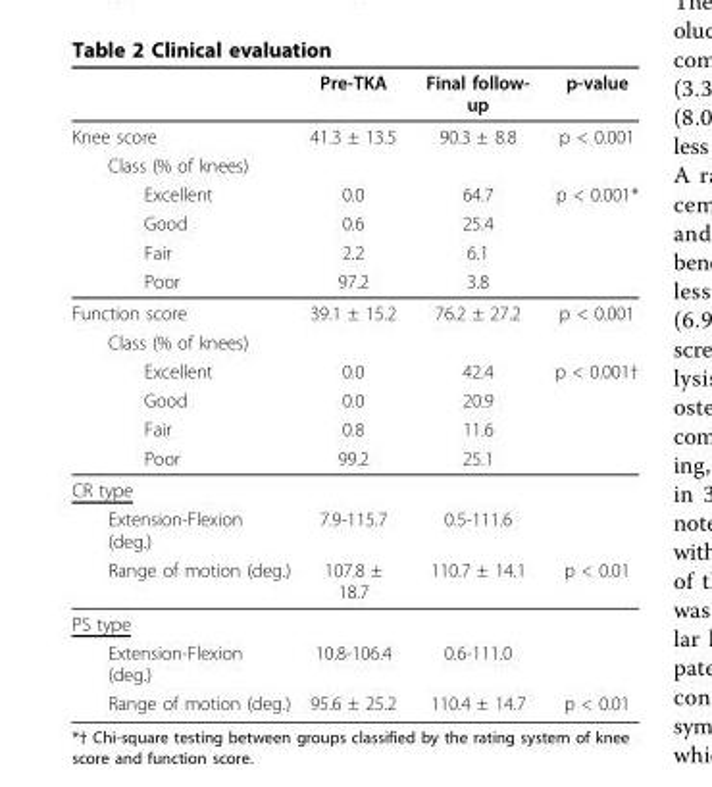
<table><thead><tr><td></td><td>Pre-TKA</td><td>Final follow- up</td><td>p-value</td></tr></thead><tbody><tr><td>Knee score</td><td>41.3 ± 13.5</td><td>90.3 ± 8.8</td><td>p &lt; 0.001</td></tr><tr><td colspan="4">Class (% of knees)</td></tr><tr><td>Excellent</td><td>0.0</td><td>64.7</td><td>p &lt; 0.001*</td></tr><tr><td>Good</td><td>0.6</td><td>25.4</td><td></td></tr><tr><td>Fair</td><td>2.2</td><td>6.1</td><td></td></tr><tr><td>Poor</td><td>97.2</td><td>3.8</td><td></td></tr><tr><td>Function score</td><td>39.1 ± 15.2</td><td>76.2 ± 27.2</td><td>p &lt; 0.001</td></tr><tr><td colspan="4">Class (% of knees)</td></tr><tr><td>Excellent</td><td>0.0</td><td>42.4</td><td>p &lt; 0.001†</td></tr><tr><td>Good</td><td>0.0</td><td>20.9</td><td></td></tr><tr><td>Fair</td><td>0.8</td><td>11.6</td><td></td></tr><tr><td>Poor</td><td>99.2</td><td>25.1</td><td></td></tr><tr><td colspan="4">CR type</td></tr><tr><td>Extension-Flexion (deg.)</td><td>7.9-115.7</td><td>0.5-111.6</td><td></td></tr><tr><td>Range of motion (deg.)</td><td>107.8 ± 18.7</td><td>110.7 ± 14.1</td><td>p &lt; 0.01</td></tr><tr><td colspan="4">PS type</td></tr><tr><td>Extension-Flexion (deg.)</td><td>10.8-106.4</td><td>0.6-111.0</td><td></td></tr><tr><td>Range of motion (deg.)</td><td>95.6 ± 25.2</td><td>110.4 ± 14.7</td><td>p &lt; 0.01</td></tr></tbody></table>